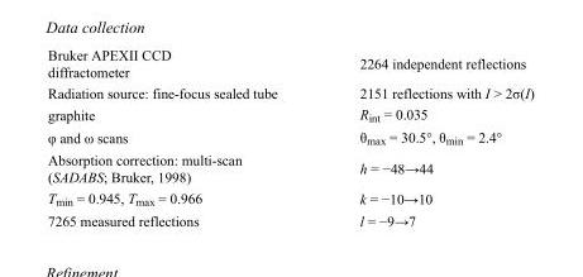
<table><tbody><tr><td>Bruker APEXII CCD diffractometer</td><td>2264 independent reflections</td></tr><tr><td>Radiation source: fine-focus sealed tube</td><td>2151 reflections with I &gt; 2σ(I)</td></tr><tr><td>graphite</td><td>R<sub>int</sub> = 0.035</td></tr><tr><td>φ and ω scans</td><td>θ<sub>max</sub> = 30.5°, θ<sub>min</sub> = 2.4°</td></tr><tr><td>Absorption correction: multi-scan (SADABS; Bruker, 1998)</td><td>h = −48→44</td></tr><tr><td>T<sub>min</sub> = 0.945, T<sub>max</sub> = 0.966</td><td>k = −10→10</td></tr><tr><td>7265 measured reflections</td><td>l = −9→7</td></tr></tbody></table>